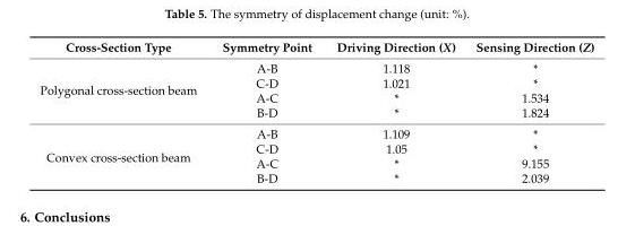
<table><thead><tr><td>Cross-Section Type</td><td>Symmetry Point</td><td>Driving Direction (X)</td><td>Sensing Direction (Z)</td></tr></thead><tbody><tr><td rowspan="4">Polygonal cross-section beam</td><td>A-B</td><td>1.118</td><td>*</td></tr><tr><td>C-D</td><td>1.021</td><td>*</td></tr><tr><td>A-C</td><td>*</td><td>1.534</td></tr><tr><td>B-D</td><td>*</td><td>1.824</td></tr><tr><td rowspan="4">Convex cross-section beam</td><td>A-B</td><td>1.109</td><td>*</td></tr><tr><td>C-D</td><td>1.05</td><td>*</td></tr><tr><td>A-C</td><td>*</td><td>9.155</td></tr><tr><td>B-D</td><td>*</td><td>2.039</td></tr></tbody></table>